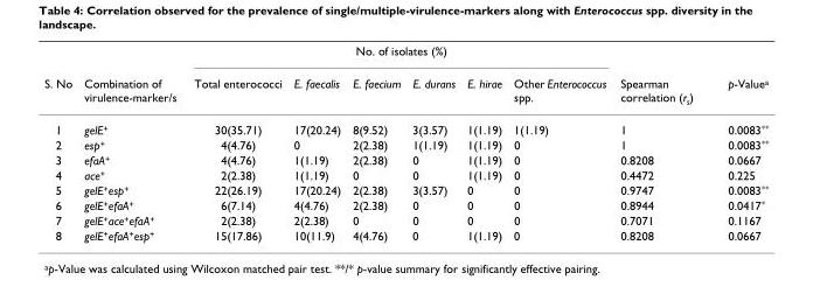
<table><thead><tr><td rowspan="2">S. No</td><td rowspan="2">Combination of virulence-marker/s</td><td colspan="6">No. of isolates (%)</td><td rowspan="2">Spearman correlation (r<sub>s</sub>)</td><td rowspan="2">p-Value<sup>a</sup></td></tr><tr><td>Total enterococci</td><td>E. faecalis</td><td>E. faecium</td><td>E. durans</td><td>E. hirae</td><td>Other Enterococcus spp.</td></tr></thead><tbody><tr><td>1</td><td>gelE<sup>+</sup></td><td>30(35.71)</td><td>17(20.24)</td><td>8(9.52)</td><td>3(3.57)</td><td>1(1.19)</td><td>1(1.19)</td><td>1</td><td>0.0083**</td></tr><tr><td>2</td><td>esp<sup>+</sup></td><td>4(4.76)</td><td>0</td><td>2(2.38)</td><td>1(1.19)</td><td>1(1.19)</td><td>0</td><td>1</td><td>0.0083**</td></tr><tr><td>3</td><td>efaA<sup>+</sup></td><td>4(4.76)</td><td>1(1.19)</td><td>2(2.38)</td><td>0</td><td>1(1.19)</td><td>0</td><td>0.8208</td><td>0.0667</td></tr><tr><td>4</td><td>ace<sup>+</sup></td><td>2(2.38)</td><td>1(1.19)</td><td>0</td><td>0</td><td>1(1.19)</td><td>0</td><td>0.4472</td><td>0.225</td></tr><tr><td>5</td><td>gelE<sup>+</sup>esp<sup>+</sup></td><td>22(26.19)</td><td>17(20.24)</td><td>2(2.38)</td><td>3(3.57)</td><td>0</td><td>0</td><td>0.9747</td><td>0.0083**</td></tr><tr><td>6</td><td>gelE<sup>+</sup>efaA<sup>+</sup></td><td>6(7.14)</td><td>4(4.76)</td><td>2(2.38)</td><td>0</td><td>0</td><td>0</td><td>0.8944</td><td>0.0417*</td></tr><tr><td>7</td><td>gelE<sup>+</sup>ace<sup>+</sup>efaA<sup>+</sup></td><td>2(2.38)</td><td>2(2.38)</td><td>0</td><td>0</td><td>0</td><td>0</td><td>0.7071</td><td>0.1167</td></tr><tr><td>8</td><td>gelE<sup>+</sup>efaA<sup>+</sup>esp<sup>+</sup></td><td>15(17.86)</td><td>10(11.9)</td><td>4(4.76)</td><td>0</td><td>1(1.19)</td><td>0</td><td>0.8208</td><td>0.0667</td></tr></tbody></table>